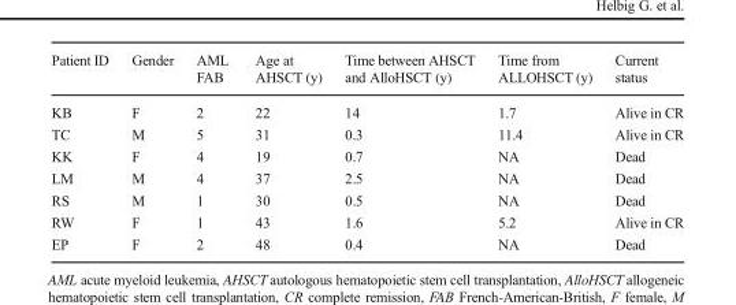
<table><thead><tr><td>Patient ID</td><td>Gender</td><td>AML FAB</td><td>Age at AHSCT (y)</td><td>Time between AHSCT and AlloHSCT (y)</td><td>Time from ALLOHSCT (y)</td><td>Current status</td></tr></thead><tbody><tr><td>KB</td><td>F</td><td>2</td><td>22</td><td>14</td><td>1.7</td><td>Alive in CR</td></tr><tr><td>TC</td><td>M</td><td>5</td><td>31</td><td>0.3</td><td>11.4</td><td>Alive in CR</td></tr><tr><td>KK</td><td>F</td><td>4</td><td>19</td><td>0.7</td><td>NA</td><td>Dead</td></tr><tr><td>LM</td><td>M</td><td>4</td><td>37</td><td>2.5</td><td>NA</td><td>Dead</td></tr><tr><td>RS</td><td>M</td><td>1</td><td>30</td><td>0.5</td><td>NA</td><td>Dead</td></tr><tr><td>RW</td><td>F</td><td>1</td><td>43</td><td>1.6</td><td>5.2</td><td>Alive in CR</td></tr><tr><td>EP</td><td>F</td><td>2</td><td>48</td><td>0.4</td><td>NA</td><td>Dead</td></tr></tbody></table>